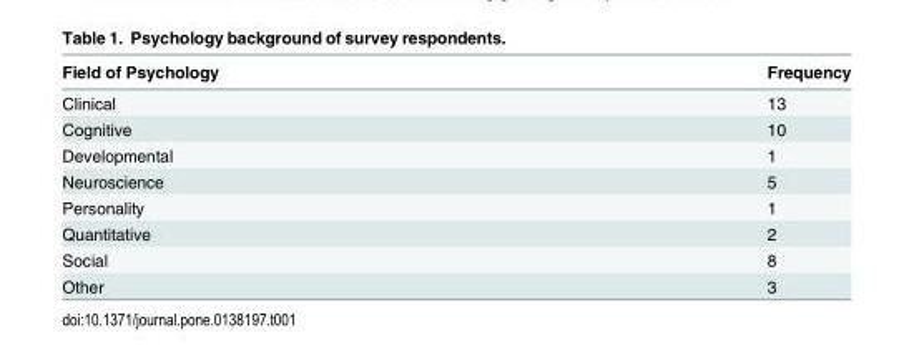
<table><thead><tr><td>Field of Psychology</td><td>Frequency</td></tr></thead><tbody><tr><td>Clinical</td><td>13</td></tr><tr><td>Cognitive</td><td>10</td></tr><tr><td>Developmental</td><td>1</td></tr><tr><td>Neuroscience</td><td>5</td></tr><tr><td>Personality</td><td>1</td></tr><tr><td>Quantitative</td><td>2</td></tr><tr><td>Social</td><td>8</td></tr><tr><td>Other</td><td>3</td></tr></tbody></table>